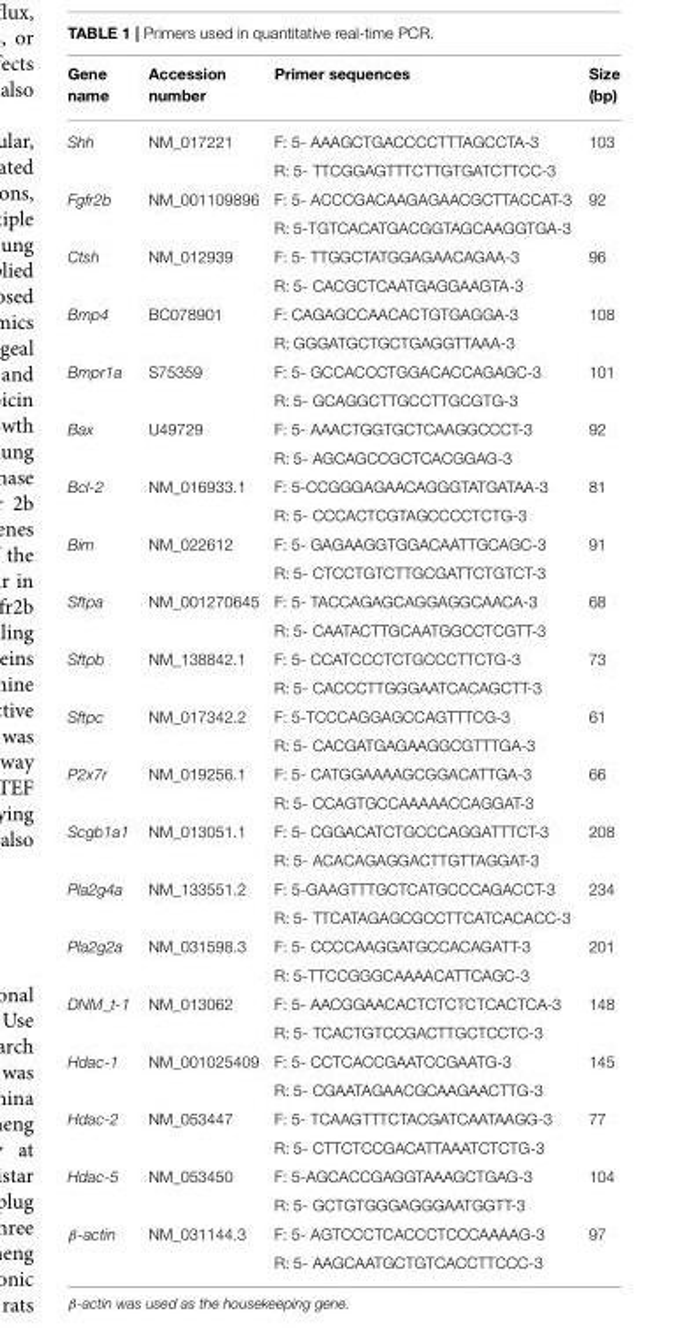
<table><thead><tr><td>Gene name</td><td>Accession number</td><td>Primer sequences</td><td>Size (bp)</td></tr></thead><tbody><tr><td rowspan="2">Shh</td><td>NM_017221</td><td>F: 5- AAAGCTGACCCCTTTAGCCTA-3</td><td>103</td></tr><tr><td></td><td>R: 5- TTCGGAGTTTCTTGTGATCTTCC-3</td><td></td></tr><tr><td rowspan="2">Fgfr2b</td><td>NM_001109896</td><td>F: 5- ACCCGACAAGAGAACGCTTACCAT-3</td><td>92</td></tr><tr><td></td><td>R: 5-TGTCACATGACGGTAGCAAGGTGA-3</td><td></td></tr><tr><td rowspan="2">Ctsh</td><td>NM_012939</td><td>F: 5- TTGGCTATGGAGAACAGAA-3</td><td>96</td></tr><tr><td></td><td>R: 5- CACGCTCAATGAGGAAGTA-3</td><td></td></tr><tr><td rowspan="2">Bmp4</td><td>BC078901</td><td>F: CAGAGCCAACACTGTGAGGA-3</td><td>108</td></tr><tr><td></td><td>R: GGGATGCTGCTGAGGTTAAA-3</td><td></td></tr><tr><td rowspan="2">Bmpr1a</td><td>S75359</td><td>F: 5- GCCACCCTGGACACCAGAGC-3</td><td>101</td></tr><tr><td></td><td>R: 5- GCAGGCTTGCCTTGCGTG-3</td><td></td></tr><tr><td rowspan="2">Bax</td><td>U49729</td><td>F: 5- AAACTGGTGCTCAAGGCCCT-3</td><td>92</td></tr><tr><td></td><td>R: 5- AGCAGCCGCTCACGGAG-3</td><td></td></tr><tr><td rowspan="2">Bcl-2</td><td>NM_016933.1</td><td>F: 5-CCGGGAGAACAGGGTATGATAA-3</td><td>81</td></tr><tr><td></td><td>R: 5- CCCACTCGTAGCCCCTCTG-3</td><td></td></tr><tr><td rowspan="2">Bim</td><td>NM_022612</td><td>F: 5- GAGAAGGTGGACAATTGCAGC-3</td><td>91</td></tr><tr><td></td><td>R: 5- CTCCTGTCTTGCGATTCTGTCT-3</td><td></td></tr><tr><td rowspan="2">Sftpa</td><td>NM_001270645</td><td>F: 5- TACCAGAGCAGGAGGCAACA-3</td><td>68</td></tr><tr><td></td><td>R: 5- CAATACTTGCAATGGCCTCGTT-3</td><td></td></tr><tr><td rowspan="2">Sftpb</td><td>NM_138842.1</td><td>F: 5- CCATCCCTCTGCCCTTCTG-3</td><td>73</td></tr><tr><td></td><td>R: 5- CACCCTTGGGAATCACAGCTT-3</td><td></td></tr><tr><td rowspan="2">Sftpc</td><td>NM_017342.2</td><td>F: 5-TCCCAGGAGCCAGTTTCG-3</td><td>61</td></tr><tr><td></td><td>R: 5- CACGATGAGAAGGCGTTTGA-3</td><td></td></tr><tr><td rowspan="2">P2x7r</td><td>NM_019256.1</td><td>F: 5- CATGGAAAAGCGGACATTGA-3</td><td>66</td></tr><tr><td></td><td>R: 5- CCAGTGCCAAAAACCAGGAT-3</td><td></td></tr><tr><td rowspan="2">Scgb1a1</td><td>NM_013051.1</td><td>F: 5- CGGACATCTGCCCAGGATTTCT-3</td><td>208</td></tr><tr><td></td><td>R: 5- ACACAGAGGACTTGTTAGGAT-3</td><td></td></tr><tr><td rowspan="2">Pla2g4a</td><td>NM_133551.2</td><td>F: 5-GAAGTTTGCTCATGCCCAGACCT-3</td><td>234</td></tr><tr><td></td><td>R: 5- TTCATAGAGCGCCTTCATCACACC-3</td><td></td></tr><tr><td rowspan="2">Pla2g2a</td><td>NM_031598.3</td><td>F: 5- CCCCAAGGATGCCACAGATT-3</td><td>201</td></tr><tr><td></td><td>R: 5-TTCCGGGCAAAACATTCAGC-3</td><td></td></tr><tr><td rowspan="2">DNM_t-1</td><td>NM_013062</td><td>F: 5- AACGGAACACTCTCTCTCACTCA-3</td><td>148</td></tr><tr><td></td><td>R: 5- TCACTGTCCGACTTGCTCCTC-3</td><td></td></tr><tr><td rowspan="2">Hdac-1</td><td>NM_001025409</td><td>F: 5- CCTCACCGAATCCGAATG-3</td><td>145</td></tr><tr><td></td><td>R: 5- CGAATAGAACGCAAGAACTTG-3</td><td></td></tr><tr><td rowspan="2">Hdac-2</td><td>NM_053447</td><td>F: 5- TCAAGTTTCTACGATCAATAAGG-3</td><td>77</td></tr><tr><td></td><td>R: 5- CTTCTCCGACATTAAATCTCTG-3</td><td></td></tr><tr><td rowspan="2">Hdac-5</td><td>NM_053450</td><td>F: 5-AGCACCGAGGTAAAGCTGAG-3</td><td>104</td></tr><tr><td></td><td>R: 5- GCTGTGGGAGGGAATGGTT-3</td><td></td></tr><tr><td rowspan="2">β-actin</td><td>NM_031144.3</td><td>F: 5- AGTCCCTCACCCTCCCAAAAG-3</td><td>97</td></tr><tr><td></td><td>R: 5- AAGCAATGCTGTCACCTTCCC-3</td><td></td></tr></tbody></table>